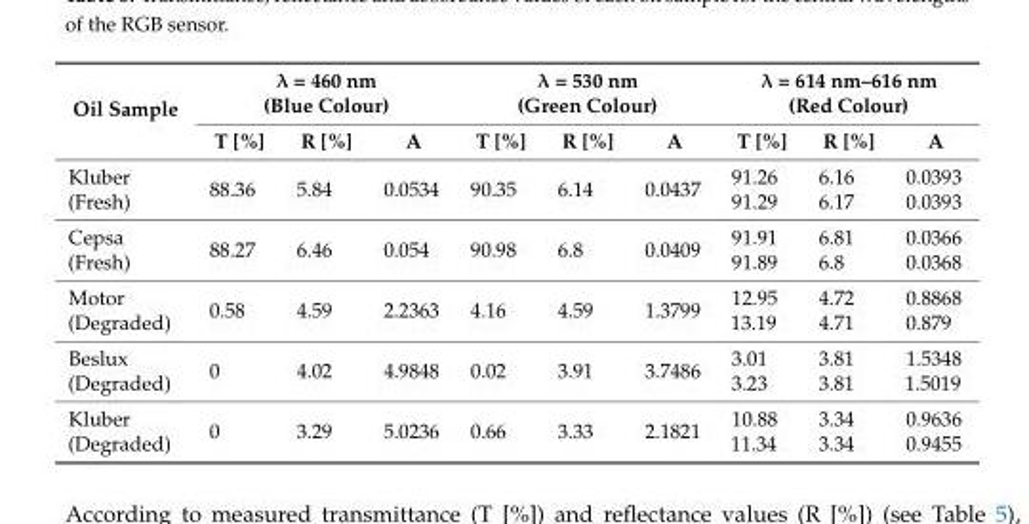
<table><thead><tr><td rowspan="2">Oil Sample</td><td colspan="3">λ = 460 nm (Blue Colour)</td><td colspan="3">λ = 530 nm (Green Colour)</td><td colspan="3">λ = 614 nm–616 nm (Red Colour)</td></tr><tr><td>T [%]</td><td>R [%]</td><td>A</td><td>T [%]</td><td>R [%]</td><td>A</td><td>T [%]</td><td>R [%]</td><td>A</td></tr></thead><tbody><tr><td>Kluber (Fresh)</td><td>88.36</td><td>5.84</td><td>0.0534</td><td>90.35</td><td>6.14</td><td>0.0437</td><td>91.26 91.29</td><td>6.16 6.17</td><td>0.0393 0.0393</td></tr><tr><td>Cepsa (Fresh)</td><td>88.27</td><td>6.46</td><td>0.054</td><td>90.98</td><td>6.8</td><td>0.0409</td><td>91.91 91.89</td><td>6.81 6.8</td><td>0.0366 0.0368</td></tr><tr><td>Motor (Degraded)</td><td>0.58</td><td>4.59</td><td>2.2363</td><td>4.16</td><td>4.59</td><td>1.3799</td><td>12.95 13.19</td><td>4.72 4.71</td><td>0.8868 0.879</td></tr><tr><td>Beslux (Degraded)</td><td>0</td><td>4.02</td><td>4.9848</td><td>0.02</td><td>3.91</td><td>3.7486</td><td>3.01 3.23</td><td>3.81 3.81</td><td>1.5348 1.5019</td></tr><tr><td>Kluber (Degraded)</td><td>0</td><td>3.29</td><td>5.0236</td><td>0.66</td><td>3.33</td><td>2.1821</td><td>10.88 11.34</td><td>3.34 3.34</td><td>0.9636 0.9455</td></tr></tbody></table>